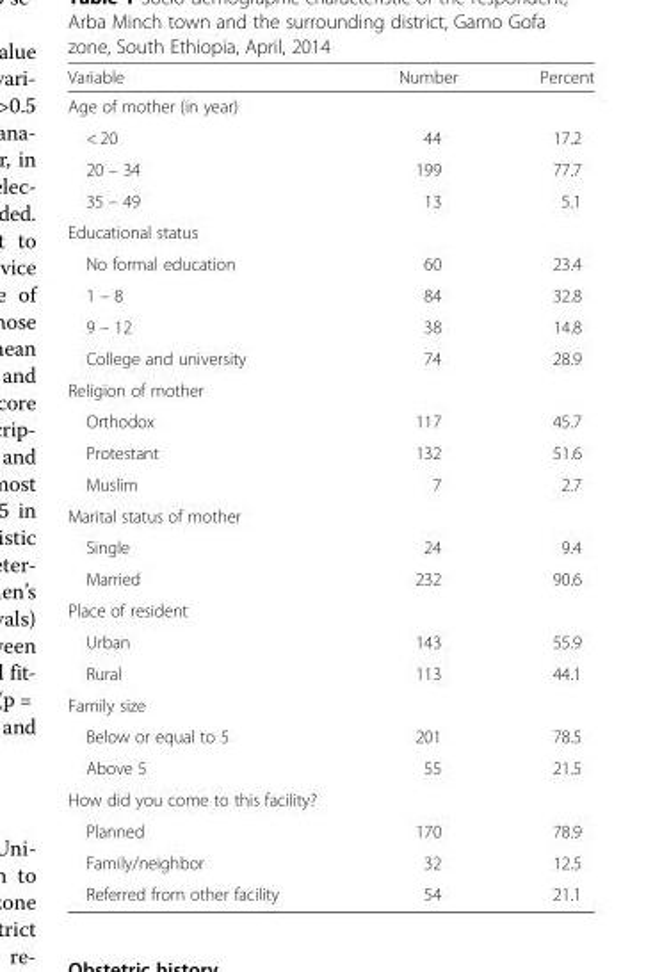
<table><thead><tr><td>Variable</td><td>Number</td><td>Percent</td></tr></thead><tbody><tr><td colspan="3">Age of mother (in year)</td></tr><tr><td>&lt; 20</td><td>44</td><td>17.2</td></tr><tr><td>20 – 34</td><td>199</td><td>77.7</td></tr><tr><td>35 – 49</td><td>13</td><td>5.1</td></tr><tr><td colspan="3">Educational status</td></tr><tr><td>No formal education</td><td>60</td><td>23.4</td></tr><tr><td>1 – 8</td><td>84</td><td>32.8</td></tr><tr><td>9 – 12</td><td>38</td><td>14.8</td></tr><tr><td>College and university</td><td>74</td><td>28.9</td></tr><tr><td colspan="3">Religion of mother</td></tr><tr><td>Orthodox</td><td>117</td><td>45.7</td></tr><tr><td>Protestant</td><td>132</td><td>51.6</td></tr><tr><td>Muslim</td><td>7</td><td>2.7</td></tr><tr><td colspan="3">Marital status of mother</td></tr><tr><td>Single</td><td>24</td><td>9.4</td></tr><tr><td>Married</td><td>232</td><td>90.6</td></tr><tr><td colspan="3">Place of resident</td></tr><tr><td>Urban</td><td>143</td><td>55.9</td></tr><tr><td>Rural</td><td>113</td><td>44.1</td></tr><tr><td colspan="3">Family size</td></tr><tr><td>Below or equal to 5</td><td>201</td><td>78.5</td></tr><tr><td>Above 5</td><td>55</td><td>21.5</td></tr><tr><td colspan="3">How did you come to this facility?</td></tr><tr><td>Planned</td><td>170</td><td>78.9</td></tr><tr><td>Family/neighbor</td><td>32</td><td>12.5</td></tr><tr><td>Referred from other facility</td><td>54</td><td>21.1</td></tr></tbody></table>